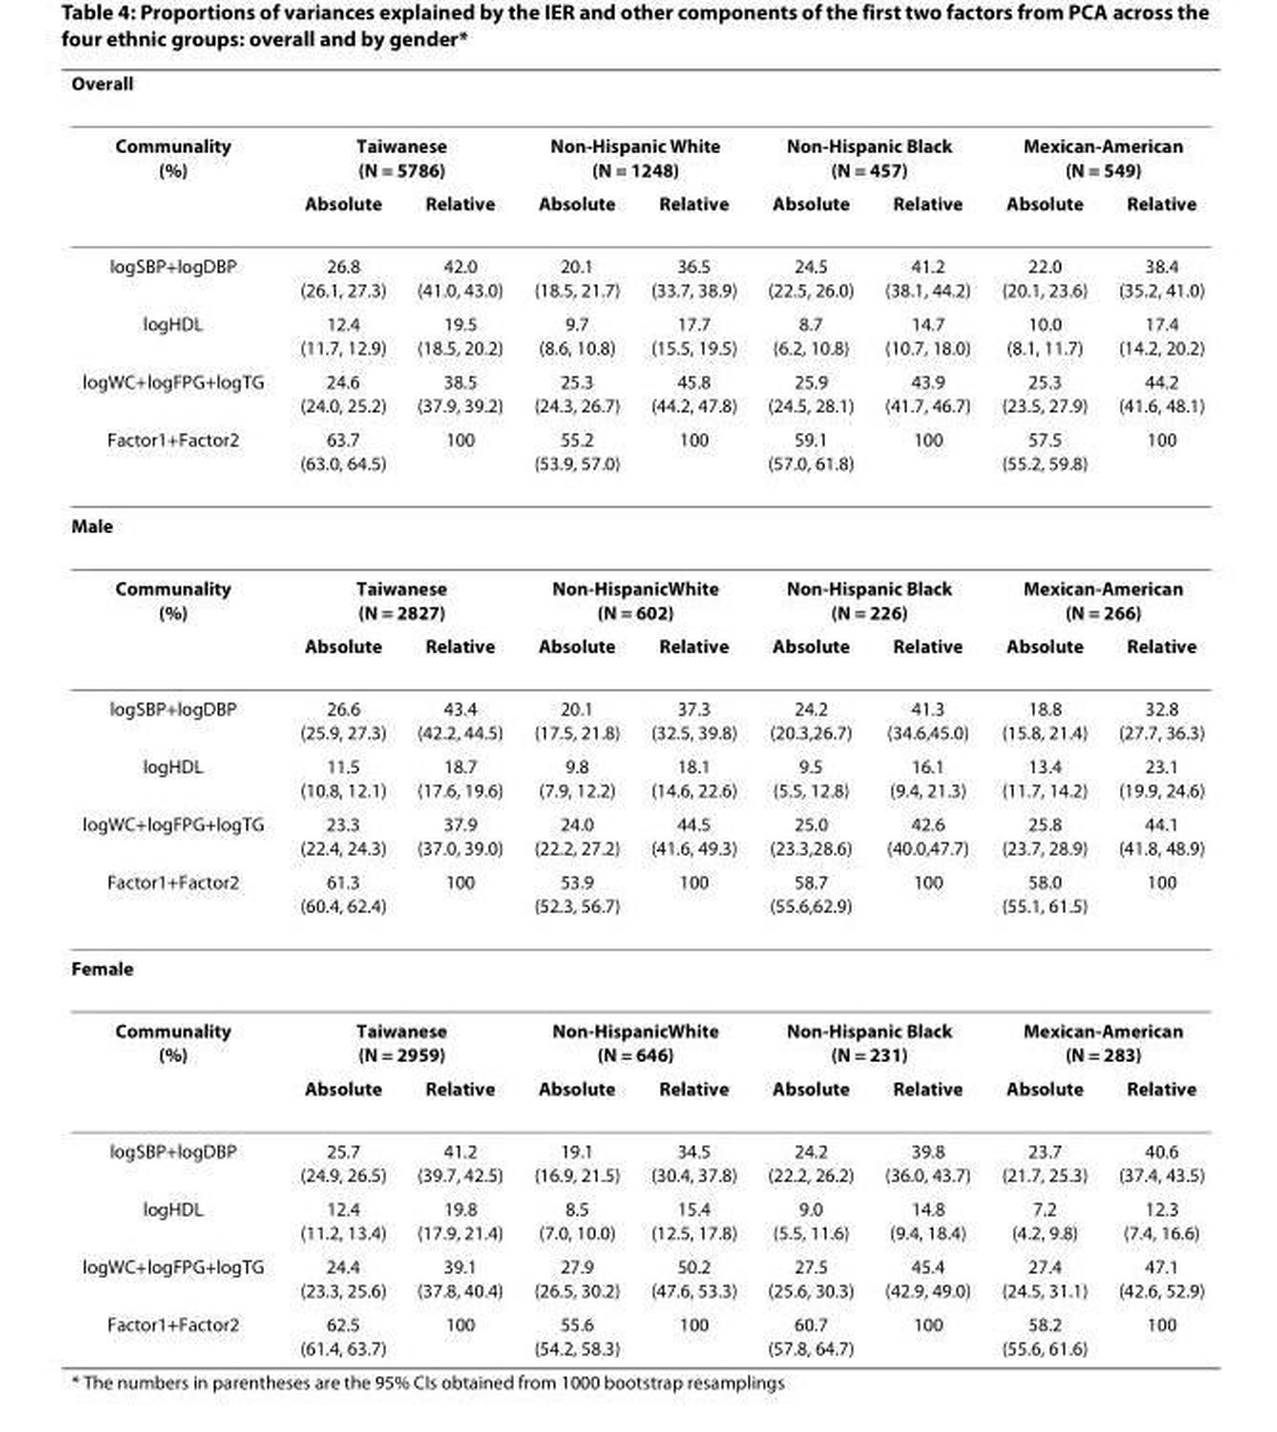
<table><thead><tr><td colspan="9">Overall</td></tr><tr><td rowspan="2">Communality (%)</td><td colspan="2">Taiwanese (N = 5786)</td><td colspan="2">Non-Hispanic White (N = 1248)</td><td colspan="2">Non-Hispanic Black (N = 457)</td><td colspan="2">Mexican-American (N = 549)</td></tr><tr><td>Absolute</td><td>Relative</td><td>Absolute</td><td>Relative</td><td>Absolute</td><td>Relative</td><td>Absolute</td><td>Relative</td></tr></thead><tbody><tr><td>logSBP+logDBP</td><td>26.8 (26.1, 27.3)</td><td>42.0 (41.0, 43.0)</td><td>20.1 (18.5, 21.7)</td><td>36.5 (33.7, 38.9)</td><td>24.5 (22.5, 26.0)</td><td>41.2 (38.1, 44.2)</td><td>22.0 (20.1, 23.6)</td><td>38.4 (35.2, 41.0)</td></tr><tr><td>logHDL</td><td>12.4 (11.7, 12.9)</td><td>19.5 (18.5, 20.2)</td><td>9.7 (8.6, 10.8)</td><td>17.7 (15.5, 19.5)</td><td>8.7 (6.2, 10.8)</td><td>14.7 (10.7, 18.0)</td><td>10.0 (8.1, 11.7)</td><td>17.4 (14.2, 20.2)</td></tr><tr><td>logWC+logFPG+logTG</td><td>24.6 (24.0, 25.2)</td><td>38.5 (37.9, 39.2)</td><td>25.3 (24.3, 26.7)</td><td>45.8 (44.2, 47.8)</td><td>25.9 (24.5, 28.1)</td><td>43.9 (41.7, 46.7)</td><td>25.3 (23.5, 27.9)</td><td>44.2 (41.6, 48.1)</td></tr><tr><td>Factor1+Factor2</td><td>63.7 (63.0, 64.5)</td><td>100</td><td>55.2 (53.9, 57.0)</td><td>100</td><td>59.1 (57.0, 61.8)</td><td>100</td><td>57.5 (55.2, 59.8)</td><td>100</td></tr><tr><td colspan="9">Male</td></tr><tr><td rowspan="2">Communality (%)</td><td colspan="2">Taiwanese (N = 2827)</td><td colspan="2">Non-HispanicWhite (N = 602)</td><td colspan="2">Non-Hispanic Black (N = 226)</td><td colspan="2">Mexican-American (N = 266)</td></tr><tr><td>Absolute</td><td>Relative</td><td>Absolute</td><td>Relative</td><td>Absolute</td><td>Relative</td><td>Absolute</td><td>Relative</td></tr><tr><td>logSBP+logDBP</td><td>26.6 (25.9, 27.3)</td><td>43.4 (42.2, 44.5)</td><td>20.1 (17.5, 21.8)</td><td>37.3 (32.5, 39.8)</td><td>24.2 (20.3,26.7)</td><td>41.3 (34.6,45.0)</td><td>18.8 (15.8, 21.4)</td><td>32.8 (27.7, 36.3)</td></tr><tr><td>logHDL</td><td>11.5 (10.8, 12.1)</td><td>18.7 (17.6, 19.6)</td><td>9.8 (7.9, 12.2)</td><td>18.1 (14.6, 22.6)</td><td>9.5 (5.5, 12.8)</td><td>16.1 (9.4, 21.3)</td><td>13.4 (11.7, 14.2)</td><td>23.1 (19.9, 24.6)</td></tr><tr><td>logWC+logFPG+logTG</td><td>23.3 (22.4, 24.3)</td><td>37.9 (37.0, 39.0)</td><td>24.0 (22.2, 27.2)</td><td>44.5 (41.6, 49.3)</td><td>25.0 (23.3,28.6)</td><td>42.6 (40.0,47.7)</td><td>25.8 (23.7, 28.9)</td><td>44.1 (41.8, 48.9)</td></tr><tr><td>Factor1+Factor2</td><td>61.3 (60.4, 62.4)</td><td>100</td><td>53.9 (52.3, 56.7)</td><td>100</td><td>58.7 (55.6,62.9)</td><td>100</td><td>58.0 (55.1, 61.5)</td><td>100</td></tr><tr><td colspan="9">Female</td></tr><tr><td rowspan="2">Communality (%)</td><td colspan="2">Taiwanese (N = 2959)</td><td colspan="2">Non-HispanicWhite (N = 646)</td><td colspan="2">Non-Hispanic Black (N = 231)</td><td colspan="2">Mexican-American (N = 283)</td></tr><tr><td>Absolute</td><td>Relative</td><td>Absolute</td><td>Relative</td><td>Absolute</td><td>Relative</td><td>Absolute</td><td>Relative</td></tr><tr><td>logSBP+logDBP</td><td>25.7 (24.9, 26.5)</td><td>41.2 (39.7, 42.5)</td><td>19.1 (16.9, 21.5)</td><td>34.5 (30.4, 37.8)</td><td>24.2 (22.2, 26.2)</td><td>39.8 (36.0, 43.7)</td><td>23.7 (21.7, 25.3)</td><td>40.6 (37.4, 43.5)</td></tr><tr><td>logHDL</td><td>12.4 (11.2, 13.4)</td><td>19.8 (17.9, 21.4)</td><td>8.5 (7.0, 10.0)</td><td>15.4 (12.5, 17.8)</td><td>9.0 (5.5, 11.6)</td><td>14.8 (9.4, 18.4)</td><td>7.2 (4.2, 9.8)</td><td>12.3 (7.4, 16.6)</td></tr><tr><td>logWC+logFPG+logTG</td><td>24.4 (23.3, 25.6)</td><td>39.1 (37.8, 40.4)</td><td>27.9 (26.5, 30.2)</td><td>50.2 (47.6, 53.3)</td><td>27.5 (25.6, 30.3)</td><td>45.4 (42.9, 49.0)</td><td>27.4 (24.5, 31.1)</td><td>47.1 (42.6, 52.9)</td></tr><tr><td>Factor1+Factor2</td><td>62.5 (61.4, 63.7)</td><td>100</td><td>55.6 (54.2, 58.3)</td><td>100</td><td>60.7 (57.8, 64.7)</td><td>100</td><td>58.2 (55.6, 61.6)</td><td>100</td></tr></tbody></table>